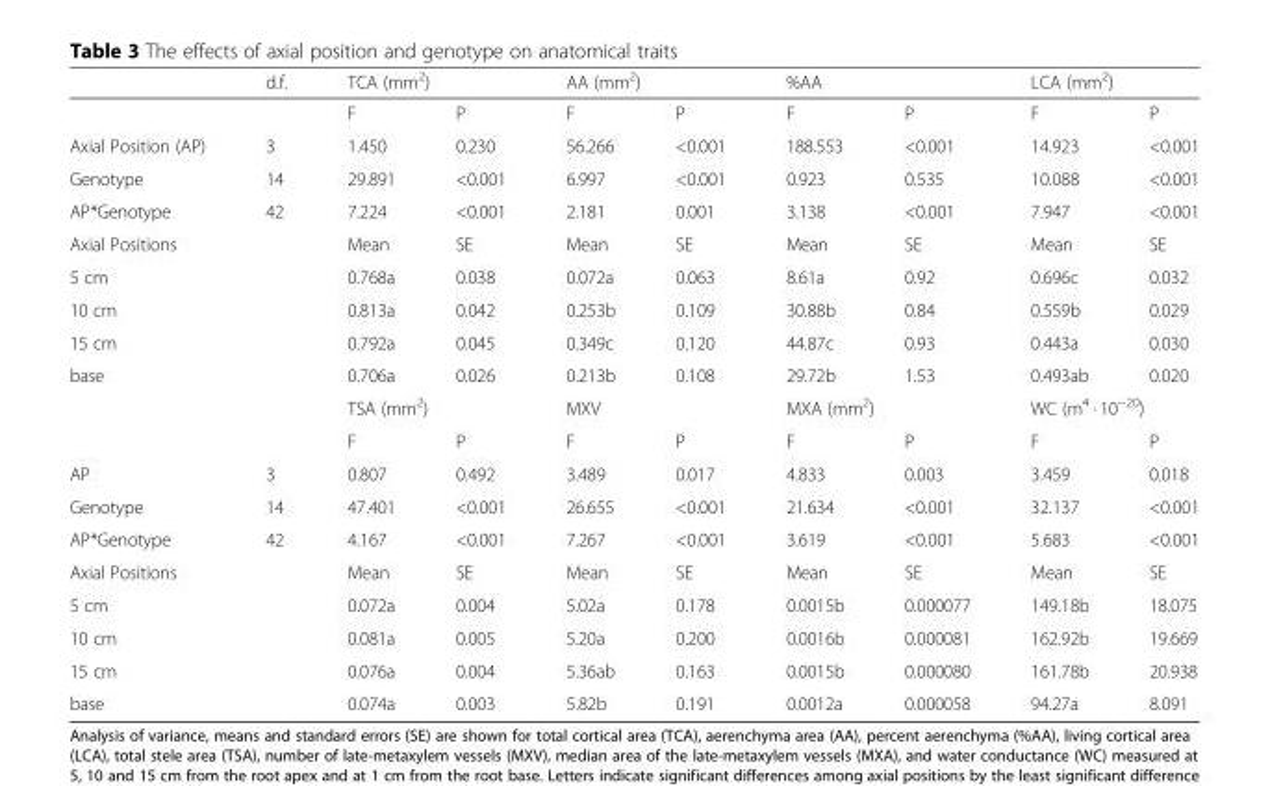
<table><thead><tr><td rowspan="2"></td><td rowspan="2">d.f.</td><td colspan="2">TCA (mm<sup>2</sup>)</td><td colspan="2">AA (mm<sup>2</sup>)</td><td colspan="2">%AA</td><td colspan="2">LCA (mm<sup>2</sup>)</td></tr><tr><td>F</td><td>P</td><td>F</td><td>P</td><td>F</td><td>P</td><td>F</td><td>P</td></tr></thead><tbody><tr><td>Axial Position (AP)</td><td>3</td><td>1.450</td><td>0.230</td><td>56.266</td><td>&lt;0.001</td><td>188.553</td><td>&lt;0.001</td><td>14.923</td><td>&lt;0.001</td></tr><tr><td>Genotype</td><td>14</td><td>29.891</td><td>&lt;0.001</td><td>6.997</td><td>&lt;0.001</td><td>0.923</td><td>0.535</td><td>10.088</td><td>&lt;0.001</td></tr><tr><td>AP*Genotype</td><td>42</td><td>7.224</td><td>&lt;0.001</td><td>2.181</td><td>0.001</td><td>3.138</td><td>&lt;0.001</td><td>7.947</td><td>&lt;0.001</td></tr><tr><td>Axial Positions</td><td></td><td>Mean</td><td>SE</td><td>Mean</td><td>SE</td><td>Mean</td><td>SE</td><td>Mean</td><td>SE</td></tr><tr><td>5 cm</td><td></td><td>0.768a</td><td>0.038</td><td>0.072a</td><td>0.063</td><td>8.61a</td><td>0.92</td><td>0.696c</td><td>0.032</td></tr><tr><td>10 cm</td><td></td><td>0.813a</td><td>0.042</td><td>0.253b</td><td>0.109</td><td>30.88b</td><td>0.84</td><td>0.559b</td><td>0.029</td></tr><tr><td>15 cm</td><td></td><td>0.792a</td><td>0.045</td><td>0.349c</td><td>0.120</td><td>44.87c</td><td>0.93</td><td>0.443a</td><td>0.030</td></tr><tr><td rowspan="3">base</td><td></td><td>0.706a</td><td>0.026</td><td>0.213b</td><td>0.108</td><td>29.72b</td><td>1.53</td><td>0.493ab</td><td>0.020</td></tr><tr><td></td><td colspan="2">TSA (mm<sup>2</sup>)</td><td colspan="2">MXV</td><td colspan="2">MXA (mm<sup>2</sup>)</td><td colspan="2">WC (m<sup>4</sup> · 10<sup>−20</sup>)</td></tr><tr><td></td><td>F</td><td>P</td><td>F</td><td>P</td><td>F</td><td>P</td><td>F</td><td>P</td></tr><tr><td>AP</td><td>3</td><td>0.807</td><td>0.492</td><td>3.489</td><td>0.017</td><td>4.833</td><td>0.003</td><td>3.459</td><td>0.018</td></tr><tr><td>Genotype</td><td>14</td><td>47.401</td><td>&lt;0.001</td><td>26.655</td><td>&lt;0.001</td><td>21.634</td><td>&lt;0.001</td><td>32.137</td><td>&lt;0.001</td></tr><tr><td>AP*Genotype</td><td>42</td><td>4.167</td><td>&lt;0.001</td><td>7.267</td><td>&lt;0.001</td><td>3.619</td><td>&lt;0.001</td><td>5.683</td><td>&lt;0.001</td></tr><tr><td>Axial Positions</td><td></td><td>Mean</td><td>SE</td><td>Mean</td><td>SE</td><td>Mean</td><td>SE</td><td>Mean</td><td>SE</td></tr><tr><td>5 cm</td><td></td><td>0.072a</td><td>0.004</td><td>5.02a</td><td>0.178</td><td>0.0015b</td><td>0.000077</td><td>149.18b</td><td>18.075</td></tr><tr><td>10 cm</td><td></td><td>0.081a</td><td>0.005</td><td>5.20a</td><td>0.200</td><td>0.0016b</td><td>0.000081</td><td>162.92b</td><td>19.669</td></tr><tr><td>15 cm</td><td></td><td>0.076a</td><td>0.004</td><td>5.36ab</td><td>0.163</td><td>0.0015b</td><td>0.000080</td><td>161.78b</td><td>20.938</td></tr><tr><td>base</td><td></td><td>0.074a</td><td>0.003</td><td>5.82b</td><td>0.191</td><td>0.0012a</td><td>0.000058</td><td>94.27a</td><td>8.091</td></tr></tbody></table>